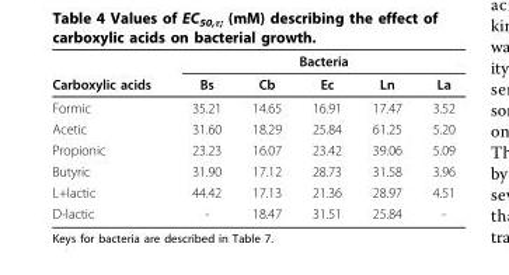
<table><thead><tr><td rowspan="2">Carboxylic acids</td><td colspan="5">Bacteria</td></tr><tr><td>Bs</td><td>Cb</td><td>Ec</td><td>Ln</td><td>La</td></tr></thead><tbody><tr><td>Formic</td><td>35.21</td><td>14.65</td><td>16.91</td><td>17.47</td><td>3.52</td></tr><tr><td>Acetic</td><td>31.60</td><td>18.29</td><td>25.84</td><td>61.25</td><td>5.20</td></tr><tr><td>Propionic</td><td>23.23</td><td>16.07</td><td>23.42</td><td>39.06</td><td>5.09</td></tr><tr><td>Butyric</td><td>31.90</td><td>17.12</td><td>28.73</td><td>31.58</td><td>3.96</td></tr><tr><td>L+lactic</td><td>44.42</td><td>17.13</td><td>21.36</td><td>28.97</td><td>4.51</td></tr><tr><td>D-lactic</td><td>-</td><td>18.47</td><td>31.51</td><td>25.84</td><td>-</td></tr></tbody></table>